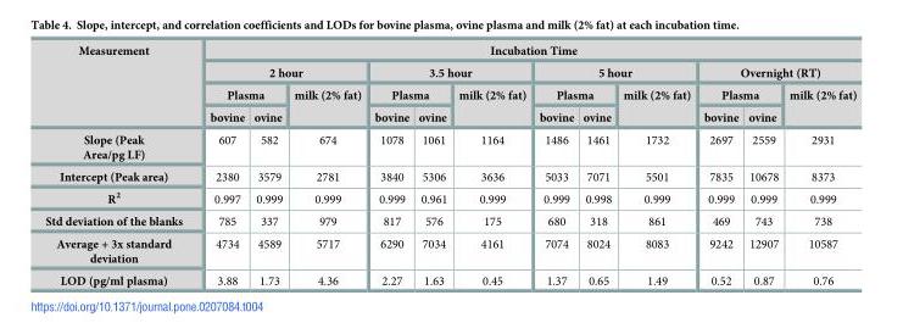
<table><thead><tr><td rowspan="4">Measurement</td><td colspan="12">Incubation Time</td></tr><tr><td colspan="3">2 hour</td><td colspan="3">3.5 hour</td><td colspan="3">5 hour</td><td colspan="3">Overnight (RT)</td></tr><tr><td colspan="2">Plasma</td><td rowspan="2">milk (2% fat)</td><td colspan="2">Plasma</td><td rowspan="2">milk (2% fat)</td><td colspan="2">Plasma</td><td rowspan="2">milk (2% fat)</td><td colspan="2">Plasma</td><td rowspan="2">milk (2% fat)</td></tr><tr><td>bovine</td><td>ovine</td><td>bovine</td><td>ovine</td><td>bovine</td><td>ovine</td><td>bovine</td><td>ovine</td></tr></thead><tbody><tr><td>Slope (Peak Area/pg LF)</td><td>607</td><td>582</td><td>674</td><td>1078</td><td>1061</td><td>1164</td><td>1486</td><td>1461</td><td>1732</td><td>2697</td><td>2559</td><td>2931</td></tr><tr><td>Intercept (Peak area)</td><td>2380</td><td>3579</td><td>2781</td><td>3840</td><td>5306</td><td>3636</td><td>5033</td><td>7071</td><td>5501</td><td>7835</td><td>10678</td><td>8373</td></tr><tr><td>R<sup>2</sup></td><td>0.997</td><td>0.999</td><td>0.999</td><td>0.999</td><td>0.961</td><td>0.999</td><td>0.999</td><td>0.998</td><td>0.999</td><td>0.999</td><td>0.999</td><td>0.999</td></tr><tr><td>Std deviation of the blanks</td><td>785</td><td>337</td><td>979</td><td>817</td><td>576</td><td>175</td><td>680</td><td>318</td><td>861</td><td>469</td><td>743</td><td>738</td></tr><tr><td>Average + 3x standard deviation</td><td>4734</td><td>4589</td><td>5717</td><td>6290</td><td>7034</td><td>4161</td><td>7074</td><td>8024</td><td>8083</td><td>9242</td><td>12907</td><td>10587</td></tr><tr><td>LOD (pg/ml plasma)</td><td>3.88</td><td>1.73</td><td>4.36</td><td>2.27</td><td>1.63</td><td>0.45</td><td>1.37</td><td>0.65</td><td>1.49</td><td>0.52</td><td>0.87</td><td>0.76</td></tr></tbody></table>